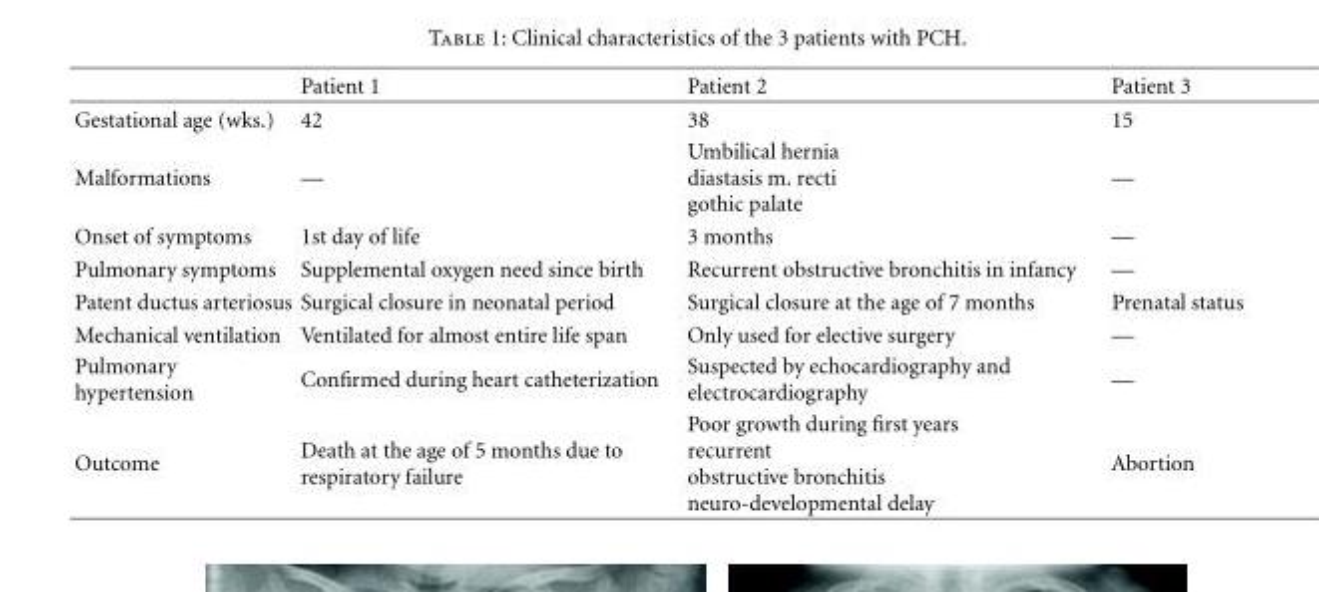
<table><thead><tr><td></td><td>Patient 1</td><td>Patient 2</td><td>Patient 3</td></tr></thead><tbody><tr><td>Gestational age (wks.)</td><td>42</td><td>38</td><td>15</td></tr><tr><td>Malformations</td><td>—</td><td>Umbilical hernia diastasis m. recti gothic palate</td><td>—</td></tr><tr><td>Onset of symptoms</td><td>1st day of life</td><td>3 months</td><td>—</td></tr><tr><td>Pulmonary symptoms</td><td>Supplemental oxygen need since birth</td><td>Recurrent obstructive bronchitis in infancy</td><td>—</td></tr><tr><td>Patent ductus arteriosus</td><td>Surgical closure in neonatal period</td><td>Surgical closure at the age of 7 months</td><td>Prenatal status</td></tr><tr><td>Mechanical ventilation</td><td>Ventilated for almost entire life span</td><td>Only used for elective surgery</td><td>—</td></tr><tr><td>Pulmonary hypertension</td><td>Confirmed during heart catheterization</td><td>Suspected by echocardiography and electrocardiography</td><td>—</td></tr><tr><td>Outcome</td><td>Death at the age of 5 months due to respiratory failure</td><td>Poor growth during first years recurrent obstructive bronchitis neuro-developmental delay</td><td>Abortion</td></tr></tbody></table>